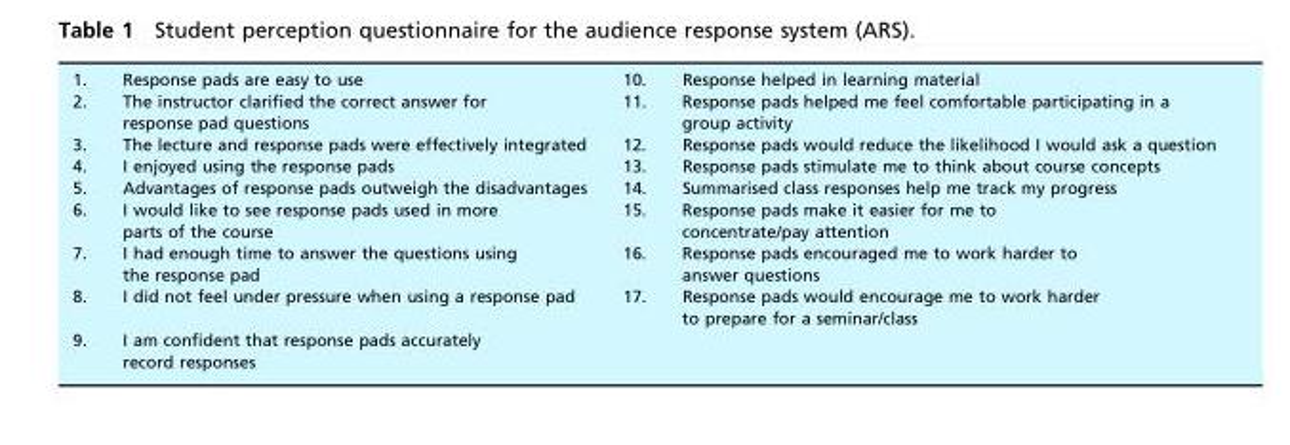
<table><tbody><tr><td>1.</td><td>Response pads are easy to use</td><td>10.</td><td>Response helped in learning material</td></tr><tr><td>2.</td><td>The instructor clarified the correct answer for response pad questions</td><td>11.</td><td>Response pads helped me feel comfortable participating in a group activity</td></tr><tr><td>3.</td><td>The lecture and response pads were effectively integrated</td><td>12.</td><td>Response pads would reduce the likelihood I would ask a question</td></tr><tr><td>4.</td><td>I enjoyed using the response pads</td><td>13.</td><td>Response pads stimulate me to think about course concepts</td></tr><tr><td>5.</td><td>Advantages of response pads outweigh the disadvantages</td><td>14.</td><td>Summarised class responses help me track my progress</td></tr><tr><td>6.</td><td>I would like to see response pads used in more parts of the course</td><td>15.</td><td>Response pads make it easier for me to concentrate/pay attention</td></tr><tr><td>7.</td><td>I had enough time to answer the questions using the response pad</td><td>16.</td><td>Response pads encouraged me to work harder to answer questions</td></tr><tr><td>8.</td><td>I did not feel under pressure when using a response pad</td><td>17.</td><td>Response pads would encourage me to work harder to prepare for a seminar/class</td></tr><tr><td>9.</td><td>I am confident that response pads accurately record responses</td><td></td><td></td></tr></tbody></table>